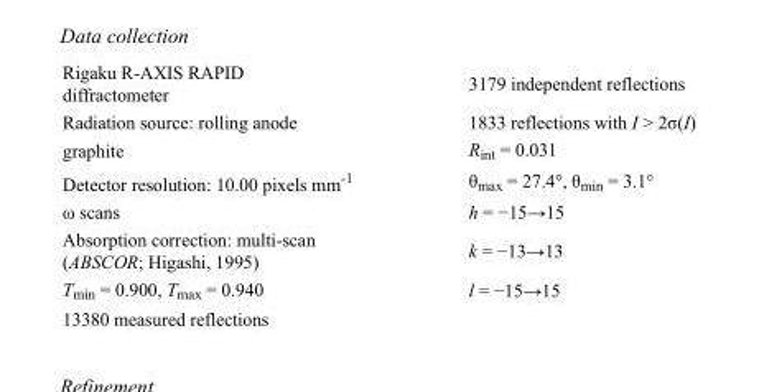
<table><tbody><tr><td>Rigaku R-AXIS RAPID diffractometer</td><td>3179 independent reflections</td></tr><tr><td>Radiation source: rolling anode</td><td>1833 reflections with I &gt; 2σ(I)</td></tr><tr><td>graphite</td><td>R<sub>int</sub> = 0.031</td></tr><tr><td>Detector resolution: 10.00 pixels mm<sup>-1</sup></td><td>θ<sub>max</sub> = 27.4°, θ<sub>min</sub> = 3.1°</td></tr><tr><td>ω scans</td><td>h = −15→15</td></tr><tr><td>Absorption correction: multi-scan (ABSCOR; Higashi, 1995)</td><td>k = −13→13</td></tr><tr><td>T<sub>min</sub> = 0.900, T<sub>max</sub> = 0.940</td><td>l = −15→15</td></tr><tr><td>13380 measured reflections</td><td></td></tr></tbody></table>